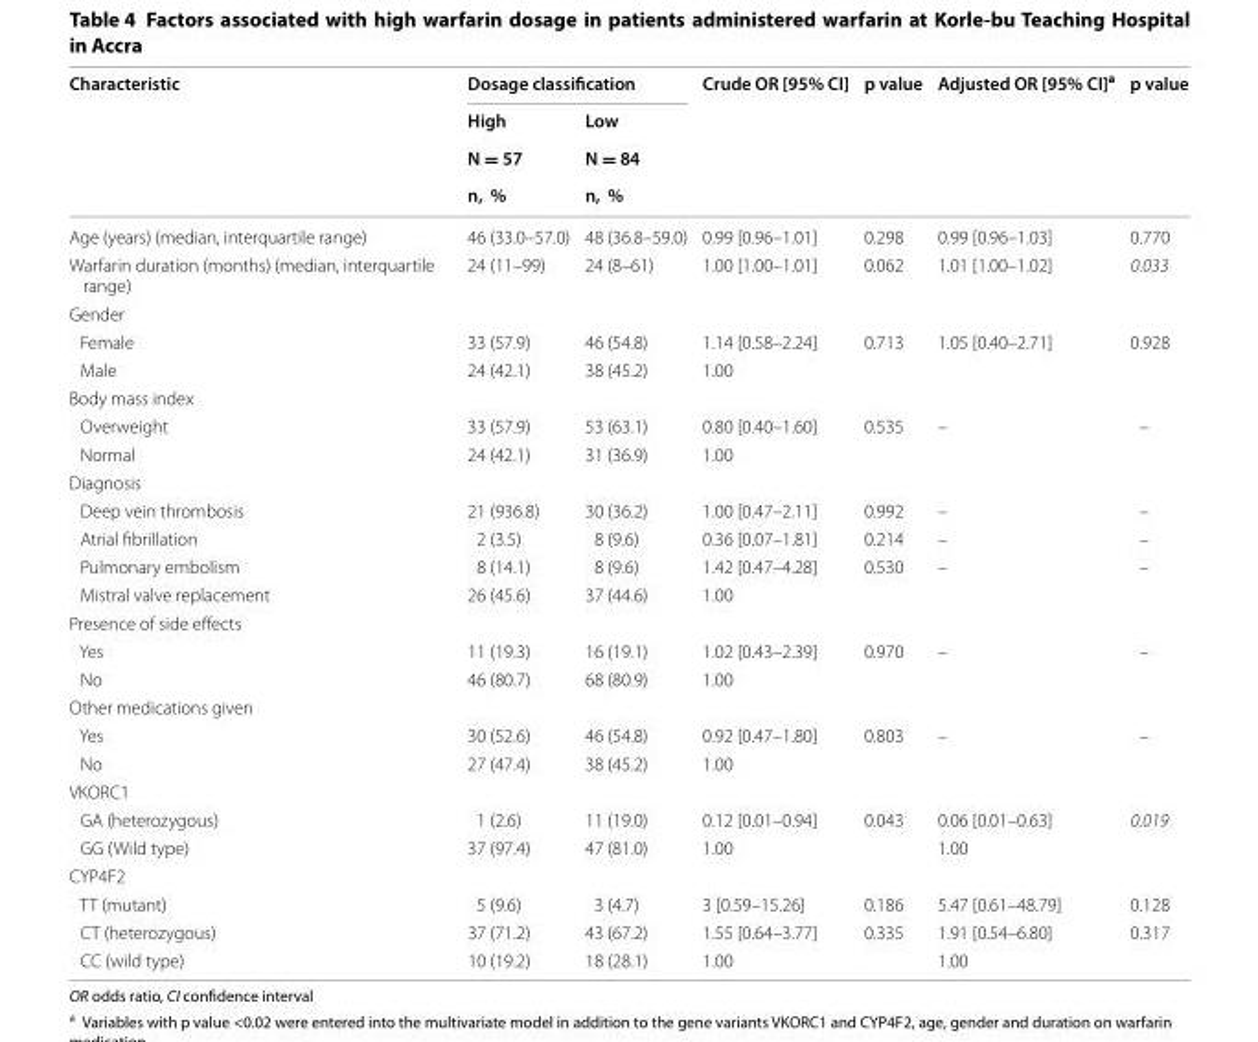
<table><thead><tr><td rowspan="4">Characteristic</td><td colspan="2">Dosage classification</td><td rowspan="4">Crude OR [95% CI]</td><td rowspan="4">p value</td><td rowspan="4">Adjusted OR [95% CI]<sup>a</sup></td><td rowspan="4">p value</td></tr><tr><td rowspan="3">High N = 57 n, %</td><td rowspan="3">Low N = 84 n, %</td></tr><tr></tr><tr></tr></thead><tbody><tr><td>Age (years) (median, interquartile range)</td><td>46 (33.0–57.0)</td><td>48 (36.8–59.0)</td><td>0.99 [0.96–1.01]</td><td>0.298</td><td>0.99 [0.96–1.03]</td><td>0.770</td></tr><tr><td>Warfarin duration (months) (median, interquartile range)</td><td>24 (11–99)</td><td>24 (8–61)</td><td>1.00 [1.00–1.01]</td><td>0.062</td><td>1.01 [1.00–1.02]</td><td>0.033</td></tr><tr><td colspan="7">Gender</td></tr><tr><td>Female</td><td>33 (57.9)</td><td>46 (54.8)</td><td>1.14 [0.58–2.24]</td><td>0.713</td><td>1.05 [0.40–2.71]</td><td>0.928</td></tr><tr><td>Male</td><td>24 (42.1)</td><td>38 (45.2)</td><td>1.00</td><td></td><td></td><td></td></tr><tr><td colspan="7">Body mass index</td></tr><tr><td>Overweight</td><td>33 (57.9)</td><td>53 (63.1)</td><td>0.80 [0.40–1.60]</td><td>0.535</td><td>–</td><td>–</td></tr><tr><td>Normal</td><td>24 (42.1)</td><td>31 (36.9)</td><td>1.00</td><td></td><td></td><td></td></tr><tr><td colspan="7">Diagnosis</td></tr><tr><td>Deep vein thrombosis</td><td>21 (936.8)</td><td>30 (36.2)</td><td>1.00 [0.47–2.11]</td><td>0.992</td><td>–</td><td>–</td></tr><tr><td>Atrial fibrillation</td><td>2 (3.5)</td><td>8 (9.6)</td><td>0.36 [0.07–1.81]</td><td>0.214</td><td>–</td><td>–</td></tr><tr><td>Pulmonary embolism</td><td>8 (14.1)</td><td>8 (9.6)</td><td>1.42 [0.47–4.28]</td><td>0.530</td><td>–</td><td>–</td></tr><tr><td>Mistral valve replacement</td><td>26 (45.6)</td><td>37 (44.6)</td><td>1.00</td><td></td><td></td><td></td></tr><tr><td colspan="7">Presence of side effects</td></tr><tr><td>Yes</td><td>11 (19.3)</td><td>16 (19.1)</td><td>1.02 [0.43–2.39]</td><td>0.970</td><td>–</td><td>–</td></tr><tr><td>No</td><td>46 (80.7)</td><td>68 (80.9)</td><td>1.00</td><td></td><td></td><td></td></tr><tr><td colspan="7">Other medications given</td></tr><tr><td>Yes</td><td>30 (52.6)</td><td>46 (54.8)</td><td>0.92 [0.47–1.80]</td><td>0.803</td><td>–</td><td>–</td></tr><tr><td>No</td><td>27 (47.4)</td><td>38 (45.2)</td><td>1.00</td><td></td><td></td><td></td></tr><tr><td colspan="7">VKORC1</td></tr><tr><td>GA (heterozygous)</td><td>1 (2.6)</td><td>11 (19.0)</td><td>0.12 [0.01–0.94]</td><td>0.043</td><td>0.06 [0.01–0.63]</td><td>0.019</td></tr><tr><td>GG (Wild type)</td><td>37 (97.4)</td><td>47 (81.0)</td><td>1.00</td><td></td><td>1.00</td><td></td></tr><tr><td colspan="7">CYP4F2</td></tr><tr><td>TT (mutant)</td><td>5 (9.6)</td><td>3 (4.7)</td><td>3 [0.59–15.26]</td><td>0.186</td><td>5.47 [0.61–48.79]</td><td>0.128</td></tr><tr><td>CT (heterozygous)</td><td>37 (71.2)</td><td>43 (67.2)</td><td>1.55 [0.64–3.77]</td><td>0.335</td><td>1.91 [0.54–6.80]</td><td>0.317</td></tr><tr><td>CC (wild type)</td><td>10 (19.2)</td><td>18 (28.1)</td><td>1.00</td><td></td><td>1.00</td><td></td></tr></tbody></table>